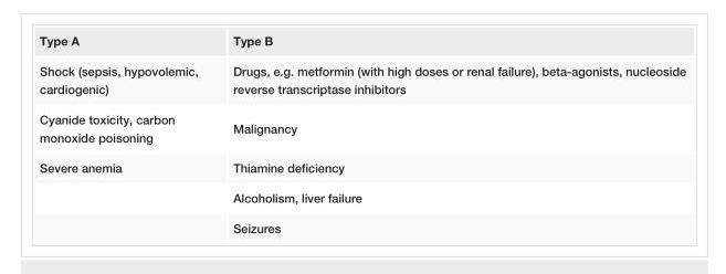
<table><tbody><tr><td>Type A</td><td>Type B</td></tr><tr><td>Shock (sepsis, hypovolemic, cardiogenic)</td><td>Drugs, e.g. metformin (with high doses or renal failure), beta-agonists, nucleoside reverse transcriptase inhibitors</td></tr><tr><td>Cyanide toxicity, carbon monoxide poisoning</td><td>Malignancy</td></tr><tr><td rowspan="3">Severe anemia</td><td>Thiamine deficiency</td></tr><tr><td>Alcoholism, liver failure</td></tr><tr><td>Seizures</td></tr></tbody></table>